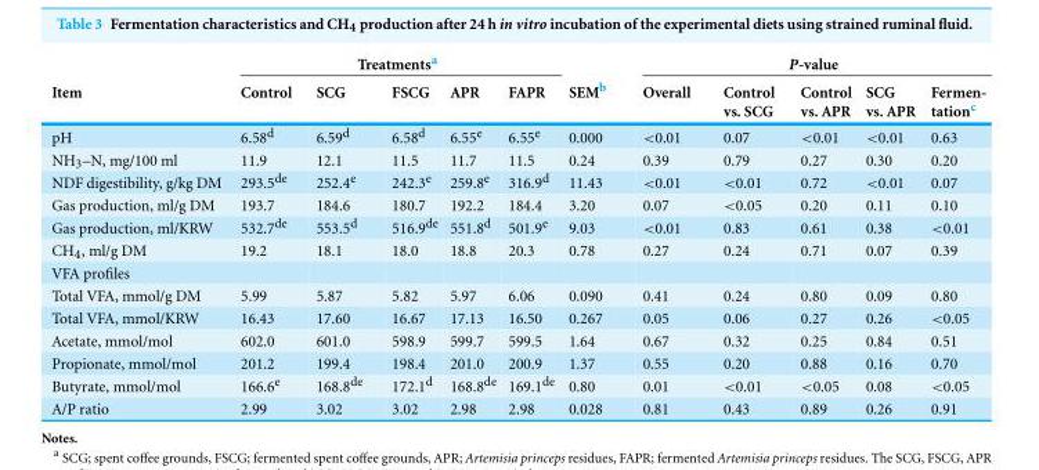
<table><thead><tr><td rowspan="2">Item</td><td colspan="5">Treatments<sup>a</sup></td><td rowspan="2">SEM<sup>b</sup></td><td colspan="5">P-value</td></tr><tr><td>Control</td><td>SCG</td><td>FSCG</td><td>APR</td><td>FAPR</td><td>Overall</td><td>Control vs. SCG</td><td>Control vs. APR</td><td>SCG vs. APR</td><td>Fermen- tation<sup>c</sup></td></tr></thead><tbody><tr><td>pH</td><td>6.58<sup>d</sup></td><td>6.59<sup>d</sup></td><td>6.58<sup>d</sup></td><td>6.55<sup>e</sup></td><td>6.55<sup>e</sup></td><td>0.000</td><td>&lt;0.01</td><td>0.07</td><td>&lt;0.01</td><td>&lt;0.01</td><td>0.63</td></tr><tr><td>NH<sub>3</sub>–N, mg/100 ml</td><td>11.9</td><td>12.1</td><td>11.5</td><td>11.7</td><td>11.5</td><td>0.24</td><td>0.39</td><td>0.79</td><td>0.27</td><td>0.30</td><td>0.20</td></tr><tr><td>NDF digestibility, g/kg DM</td><td>293.5<sup>de</sup></td><td>252.4<sup>e</sup></td><td>242.3<sup>e</sup></td><td>259.8<sup>e</sup></td><td>316.9<sup>d</sup></td><td>11.43</td><td>&lt;0.01</td><td>&lt;0.01</td><td>0.72</td><td>&lt;0.01</td><td>0.07</td></tr><tr><td>Gas production, ml/g DM</td><td>193.7</td><td>184.6</td><td>180.7</td><td>192.2</td><td>184.4</td><td>3.20</td><td>0.07</td><td>&lt;0.05</td><td>0.20</td><td>0.11</td><td>0.10</td></tr><tr><td>Gas production, ml/KRW</td><td>532.7<sup>de</sup></td><td>553.5<sup>d</sup></td><td>516.9<sup>de</sup></td><td>551.8<sup>d</sup></td><td>501.9<sup>e</sup></td><td>9.03</td><td>&lt;0.01</td><td>0.83</td><td>0.61</td><td>0.38</td><td>&lt;0.01</td></tr><tr><td>CH<sub>4</sub>, ml/g DM</td><td>19.2</td><td>18.1</td><td>18.0</td><td>18.8</td><td>20.3</td><td>0.78</td><td>0.27</td><td>0.24</td><td>0.71</td><td>0.07</td><td>0.39</td></tr><tr><td colspan="12">VFA profiles</td></tr><tr><td>Total VFA, mmol/g DM</td><td>5.99</td><td>5.87</td><td>5.82</td><td>5.97</td><td>6.06</td><td>0.090</td><td>0.41</td><td>0.24</td><td>0.80</td><td>0.09</td><td>0.80</td></tr><tr><td>Total VFA, mmol/KRW</td><td>16.43</td><td>17.60</td><td>16.67</td><td>17.13</td><td>16.50</td><td>0.267</td><td>0.05</td><td>0.06</td><td>0.27</td><td>0.26</td><td>&lt;0.05</td></tr><tr><td>Acetate, mmol/mol</td><td>602.0</td><td>601.0</td><td>598.9</td><td>599.7</td><td>599.5</td><td>1.64</td><td>0.67</td><td>0.32</td><td>0.25</td><td>0.84</td><td>0.51</td></tr><tr><td>Propionate, mmol/mol</td><td>201.2</td><td>199.4</td><td>198.4</td><td>201.0</td><td>200.9</td><td>1.37</td><td>0.55</td><td>0.20</td><td>0.88</td><td>0.16</td><td>0.70</td></tr><tr><td>Butyrate, mmol/mol</td><td>166.6<sup>e</sup></td><td>168.8<sup>de</sup></td><td>172.1<sup>d</sup></td><td>168.8<sup>de</sup></td><td>169.1<sup>de</sup></td><td>0.80</td><td>0.01</td><td>&lt;0.01</td><td>&lt;0.05</td><td>0.08</td><td>&lt;0.05</td></tr><tr><td>A/P ratio</td><td>2.99</td><td>3.02</td><td>3.02</td><td>2.98</td><td>2.98</td><td>0.028</td><td>0.81</td><td>0.43</td><td>0.89</td><td>0.26</td><td>0.91</td></tr></tbody></table>